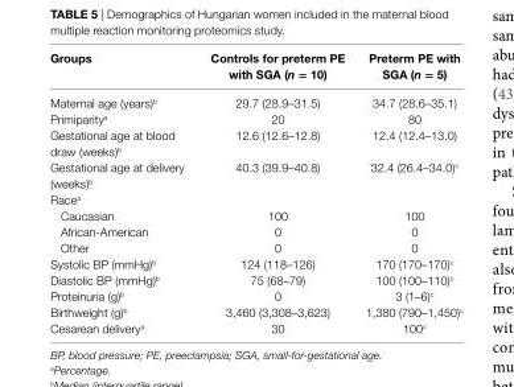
<table><thead><tr><td>groups</td><td>controls for preterm Pe with sga (n = 10)</td><td>Preterm Pe with sga (n = 5)</td></tr></thead><tbody><tr><td>Maternal age (years)<sup>b</sup></td><td>29.7 (28.9–31.5)</td><td>34.7 (28.6–35.1)</td></tr><tr><td>Primiparity<sup>a</sup></td><td>20</td><td>80</td></tr><tr><td>Gestational age at blood draw (weeks)<sup>b</sup></td><td>12.6 (12.6–12.8)</td><td>12.4 (12.4–13.0)</td></tr><tr><td>Gestational age at delivery (weeks)<sup>b</sup></td><td>40.3 (39.9–40.8)</td><td>32.4 (26.4–34.0)<sup>c</sup></td></tr><tr><td colspan="3">Race<sup>a</sup></td></tr><tr><td>Caucasian</td><td>100</td><td>100</td></tr><tr><td>African-American</td><td>0</td><td>0</td></tr><tr><td>Other</td><td>0</td><td>0</td></tr><tr><td>Systolic BP (mmHg)<sup>b</sup></td><td>124 (118–126)</td><td>170 (170–170)<sup>c</sup></td></tr><tr><td>Diastolic BP (mmHg)<sup>b</sup></td><td>75 (68–79)</td><td>100 (100–110)<sup>c</sup></td></tr><tr><td>Proteinuria (g)<sup>b</sup></td><td>0</td><td>3 (1–6)<sup>c</sup></td></tr><tr><td>Birthweight (g)<sup>b</sup></td><td>3,460 (3,308–3,623)</td><td>1,380 (790–1,450)<sup>c</sup></td></tr><tr><td>Cesarean delivery<sup>a</sup></td><td>30</td><td>100<sup>c</sup></td></tr></tbody></table>